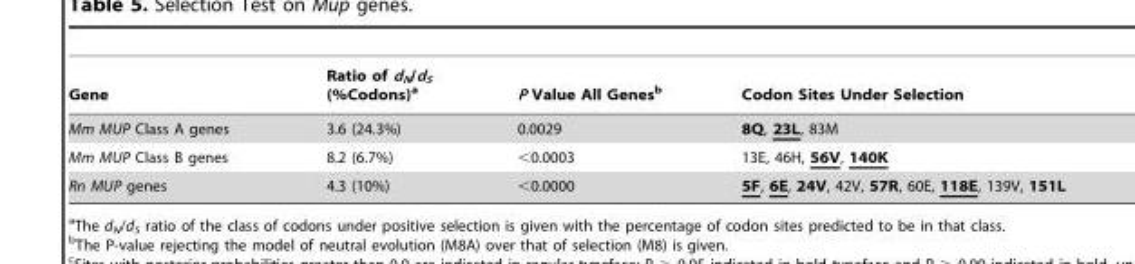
<table><thead><tr><td>Gene</td><td>Ratio of d<sub>N</sub>/d<sub>S</sub> (%Codons)<sup>a</sup></td><td>P Value All Genes<sup>b</sup></td><td>Codon Sites Under Selection</td></tr></thead><tbody><tr><td>Mm MUP Class A genes</td><td>3.6 (24.3%)</td><td>0.0029</td><td>8Q, 23L, 83M</td></tr><tr><td>Mm MUP Class B genes</td><td>8.2 (6.7%)</td><td>&lt;0.0003</td><td>13E, 46H, 56V, 140K</td></tr><tr><td>Rn MUP genes</td><td>4.3 (10%)</td><td>&lt;0.0000</td><td>5F, 6E, 24V, 42V, 57R, 60E, 118E, 139V, 151L</td></tr></tbody></table>